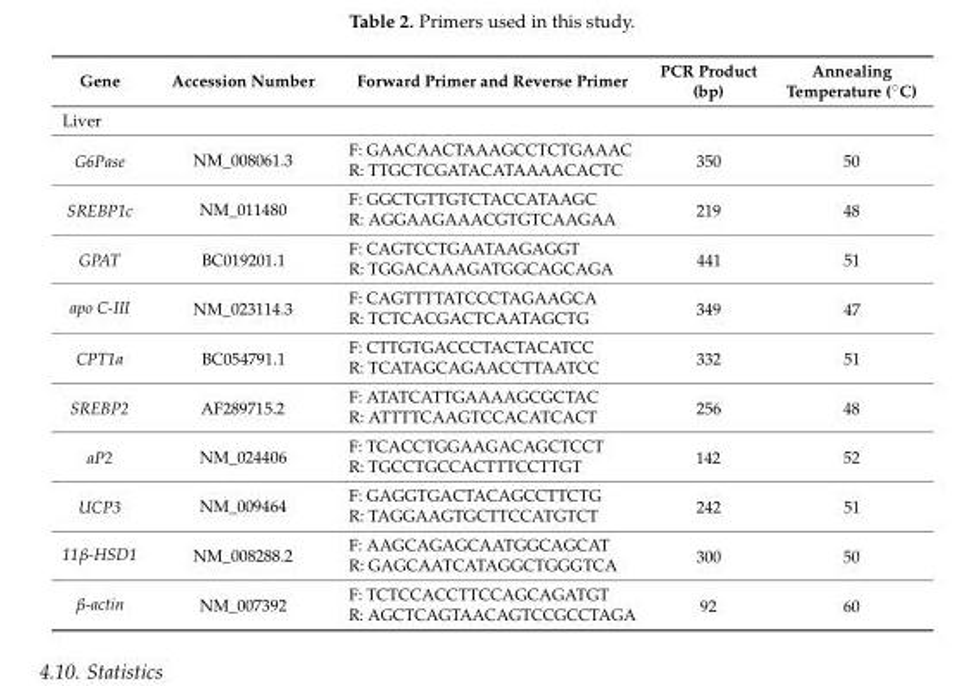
<table><thead><tr><td>Gene</td><td>Accession Number</td><td>Forward Primer and Reverse Primer</td><td>PCR Product (bp)</td><td>Annealing Temperature (˝C)</td></tr></thead><tbody><tr><td colspan="5">Liver</td></tr><tr><td rowspan="2">G6Pase</td><td rowspan="2">NM_008061.3</td><td>F: GAACAACTAAAGCCTCTGAAAC</td><td rowspan="2">350</td><td rowspan="2">50</td></tr><tr><td>R: TTGCTCGATACATAAAACACTC</td></tr><tr><td rowspan="2">SREBP1c</td><td rowspan="2">NM_011480</td><td>F: GGCTGTTGTCTACCATAAGC</td><td rowspan="2">219</td><td rowspan="2">48</td></tr><tr><td>R: AGGAAGAAACGTGTCAAGAA</td></tr><tr><td rowspan="2">GPAT</td><td rowspan="2">BC019201.1</td><td>F: CAGTCCTGAATAAGAGGT</td><td rowspan="2">441</td><td rowspan="2">51</td></tr><tr><td>R: TGGACAAAGATGGCAGCAGA</td></tr><tr><td rowspan="2">apo C-III</td><td rowspan="2">NM_023114.3</td><td>F: CAGTTTTATCCCTAGAAGCA</td><td rowspan="2">349</td><td rowspan="2">47</td></tr><tr><td>R: TCTCACGACTCAATAGCTG</td></tr><tr><td rowspan="2">CPT1a</td><td rowspan="2">BC054791.1</td><td>F: CTTGTGACCCTACTACATCC</td><td rowspan="2">332</td><td rowspan="2">51</td></tr><tr><td>R: TCATAGCAGAACCTTAATCC</td></tr><tr><td rowspan="2">SREBP2</td><td rowspan="2">AF289715.2</td><td>F: ATATCATTGAAAAGCGCTAC</td><td rowspan="2">256</td><td rowspan="2">48</td></tr><tr><td>R: ATTTTCAAGTCCACATCACT</td></tr><tr><td rowspan="2">aP2</td><td rowspan="2">NM_024406</td><td>F: TCACCTGGAAGACAGCTCCT</td><td rowspan="2">142</td><td rowspan="2">52</td></tr><tr><td>R: TGCCTGCCACTTTCCTTGT</td></tr><tr><td rowspan="2">UCP3</td><td rowspan="2">NM_009464</td><td>F: GAGGTGACTACAGCCTTCTG</td><td rowspan="2">242</td><td rowspan="2">51</td></tr><tr><td>R: TAGGAAGTGCTTCCATGTCT</td></tr><tr><td rowspan="2">11β-HSD1</td><td rowspan="2">NM_008288.2</td><td>F: AAGCAGAGCAATGGCAGCAT</td><td rowspan="2">300</td><td rowspan="2">50</td></tr><tr><td>R: GAGCAATCATAGGCTGGGTCA</td></tr><tr><td rowspan="2">β-actin</td><td rowspan="2">NM_007392</td><td>F: TCTCCACCTTCCAGCAGATGT</td><td rowspan="2">92</td><td rowspan="2">60</td></tr><tr><td>R: AGCTCAGTAACAGTCCGCCTAGA</td></tr></tbody></table>